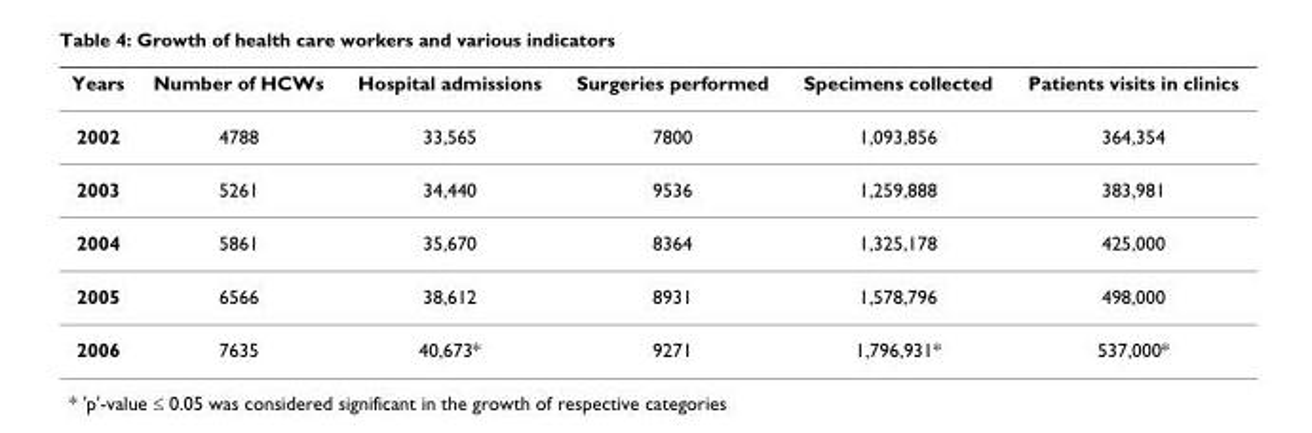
<table><thead><tr><td>Years</td><td>Number of HCWs</td><td>Hospital admissions</td><td>Surgeries performed</td><td>Specimens collected</td><td>Patients visits in clinics</td></tr></thead><tbody><tr><td>2002</td><td>4788</td><td>33,565</td><td>7800</td><td>1,093,856</td><td>364,354</td></tr><tr><td>2003</td><td>5261</td><td>34,440</td><td>9536</td><td>1,259,888</td><td>383,981</td></tr><tr><td>2004</td><td>5861</td><td>35,670</td><td>8364</td><td>1,325,178</td><td>425,000</td></tr><tr><td>2005</td><td>6566</td><td>38,612</td><td>8931</td><td>1,578,796</td><td>498,000</td></tr><tr><td>2006</td><td>7635</td><td>40,673*</td><td>9271</td><td>1,796,931*</td><td>537,000*</td></tr></tbody></table>